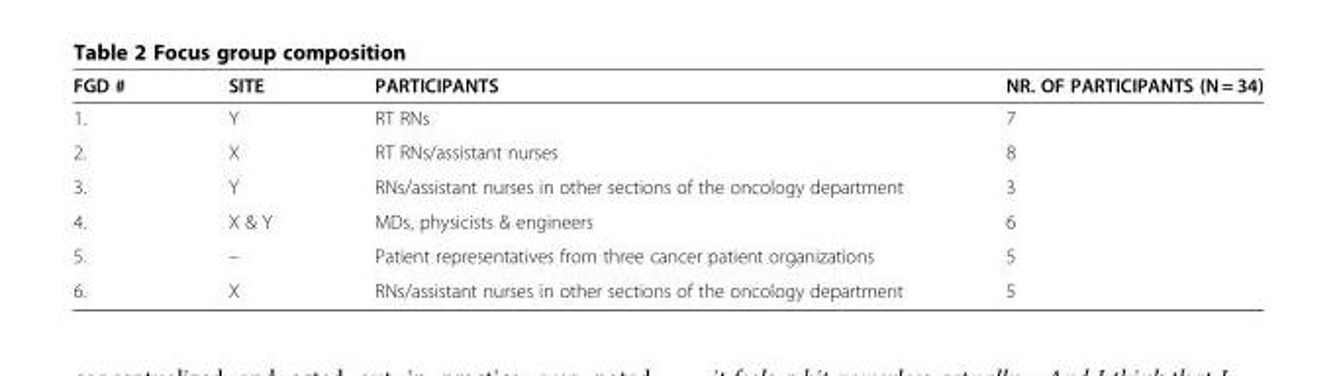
<table><thead><tr><td>FGD #</td><td>SITE</td><td>PARTICIPANTS</td><td>NR. OF PARTICIPANTS (N = 34)</td></tr></thead><tbody><tr><td>1.</td><td>Y</td><td>RT RNs</td><td>7</td></tr><tr><td>2.</td><td>X</td><td>RT RNs/assistant nurses</td><td>8</td></tr><tr><td>3.</td><td>Y</td><td>RNs/assistant nurses in other sections of the oncology department</td><td>3</td></tr><tr><td>4.</td><td>X &amp; Y</td><td>MDs, physicists &amp; engineers</td><td>6</td></tr><tr><td>5.</td><td>–</td><td>Patient representatives from three cancer patient organizations</td><td>5</td></tr><tr><td>6.</td><td>X</td><td>RNs/assistant nurses in other sections of the oncology department</td><td>5</td></tr></tbody></table>